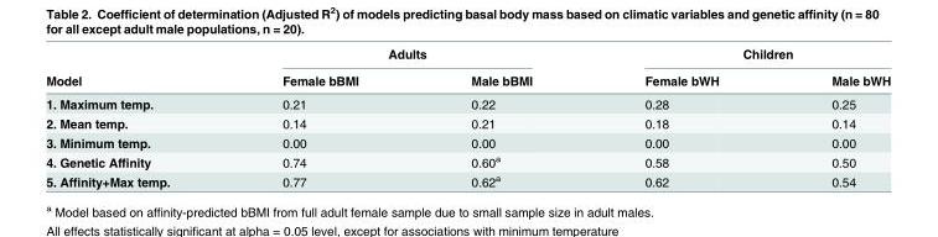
<table><thead><tr><td rowspan="2">Model</td><td colspan="2">Adults</td><td colspan="2">Children</td></tr><tr><td>Female bBMI</td><td>Male bBMI</td><td>Female bWH</td><td>Male bWH</td></tr></thead><tbody><tr><td>1. Maximum temp.</td><td>0.21</td><td>0.22</td><td>0.28</td><td>0.25</td></tr><tr><td>2. Mean temp.</td><td>0.14</td><td>0.21</td><td>0.18</td><td>0.14</td></tr><tr><td>3. Minimum temp.</td><td>0.00</td><td>0.00</td><td>0.00</td><td>0.00</td></tr><tr><td>4. Genetic Affinity</td><td>0.74</td><td>0.60<sup>a</sup></td><td>0.58</td><td>0.50</td></tr><tr><td>5. Affinity+Max temp.</td><td>0.77</td><td>0.62<sup>a</sup></td><td>0.62</td><td>0.54</td></tr></tbody></table>